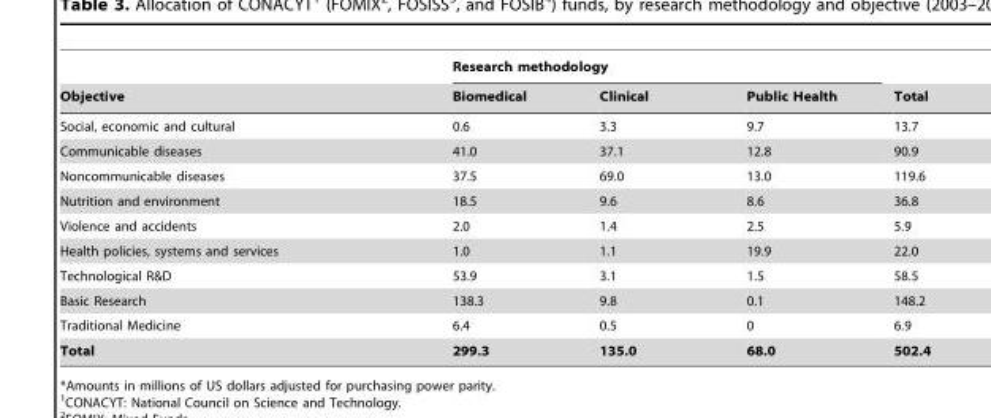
<table><thead><tr><td rowspan="2">Objective</td><td colspan="3">Research methodology</td><td rowspan="2">Total</td></tr><tr><td>Biomedical</td><td>Clinical</td><td>Public Health</td></tr></thead><tbody><tr><td>Social, economic and cultural</td><td>0.6</td><td>3.3</td><td>9.7</td><td>13.7</td></tr><tr><td>Communicable diseases</td><td>41.0</td><td>37.1</td><td>12.8</td><td>90.9</td></tr><tr><td>Noncommunicable diseases</td><td>37.5</td><td>69.0</td><td>13.0</td><td>119.6</td></tr><tr><td>Nutrition and environment</td><td>18.5</td><td>9.6</td><td>8.6</td><td>36.8</td></tr><tr><td>Violence and accidents</td><td>2.0</td><td>1.4</td><td>2.5</td><td>5.9</td></tr><tr><td>Health policies, systems and services</td><td>1.0</td><td>1.1</td><td>19.9</td><td>22.0</td></tr><tr><td>Technological R&amp;D</td><td>53.9</td><td>3.1</td><td>1.5</td><td>58.5</td></tr><tr><td>Basic Research</td><td>138.3</td><td>9.8</td><td>0.1</td><td>148.2</td></tr><tr><td>Traditional Medicine</td><td>6.4</td><td>0.5</td><td>0</td><td>6.9</td></tr><tr><td>Total</td><td>299.3</td><td>135.0</td><td>68.0</td><td>502.4</td></tr></tbody></table>